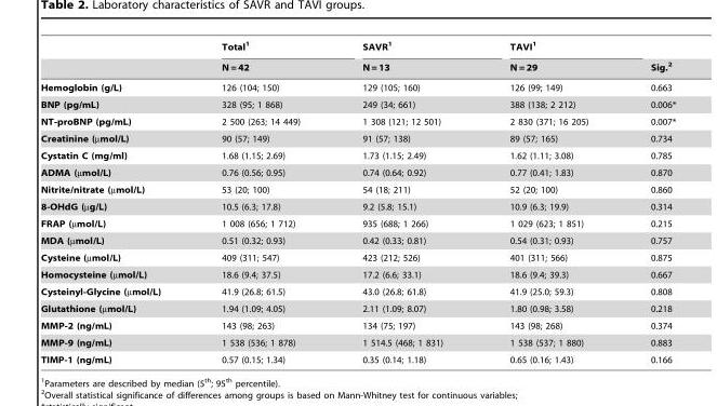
<table><thead><tr><td rowspan="2"></td><td rowspan="2">Total<sup>1</sup> N = 42</td><td rowspan="2">SAVR<sup>1</sup> N = 13</td><td rowspan="2">TAVI<sup>1</sup> N = 29</td><td rowspan="2">Sig.<sup>2</sup></td></tr><tr></tr></thead><tbody><tr><td>Hemoglobin (g/L)</td><td>126 (104; 150)</td><td>129 (105; 160)</td><td>126 (99; 149)</td><td>0.663</td></tr><tr><td>BNP (pg/mL)</td><td>328 (95; 1 868)</td><td>249 (34; 661)</td><td>388 (138; 2 212)</td><td>0.006*</td></tr><tr><td>NT-proBNP (pg/mL)</td><td>2 500 (263; 14 449)</td><td>1 308 (121; 12 501)</td><td>2 830 (371; 16 205)</td><td>0.007*</td></tr><tr><td>Creatinine (µmol/L)</td><td>90 (57; 149)</td><td>91 (57; 138)</td><td>89 (57; 165)</td><td>0.734</td></tr><tr><td>Cystatin C (mg/ml)</td><td>1.68 (1.15; 2.69)</td><td>1.73 (1.15; 2.49)</td><td>1.62 (1.11; 3.08)</td><td>0.785</td></tr><tr><td>ADMA (µmol/L)</td><td>0.76 (0.56; 0.95)</td><td>0.74 (0.64; 0.92)</td><td>0.77 (0.41; 1.83)</td><td>0.870</td></tr><tr><td>Nitrite/nitrate (µmol/L)</td><td>53 (20; 100)</td><td>54 (18; 211)</td><td>52 (20; 100)</td><td>0.860</td></tr><tr><td>8-OHdG (µg/L)</td><td>10.5 (6.3; 17.8)</td><td>9.2 (5.8; 15.1)</td><td>10.9 (6.3; 19.9)</td><td>0.314</td></tr><tr><td>FRAP (µmol/L)</td><td>1 008 (656; 1 712)</td><td>935 (688; 1 266)</td><td>1 029 (623; 1 851)</td><td>0.215</td></tr><tr><td>MDA (µmol/L)</td><td>0.51 (0.32; 0.93)</td><td>0.42 (0.33; 0.81)</td><td>0.54 (0.31; 0.93)</td><td>0.757</td></tr><tr><td>Cysteine (µmol/L)</td><td>409 (311; 547)</td><td>423 (212; 526)</td><td>401 (311; 566)</td><td>0.875</td></tr><tr><td>Homocysteine (µmol/L)</td><td>18.6 (9.4; 37.5)</td><td>17.2 (6.6; 33.1)</td><td>18.6 (9.4; 39.3)</td><td>0.667</td></tr><tr><td>Cysteinyl-Glycine (µmol/L)</td><td>41.9 (26.8; 61.5)</td><td>43.0 (26.8; 61.8)</td><td>41.9 (25.0; 59.3)</td><td>0.808</td></tr><tr><td>Glutathione (µmol/L)</td><td>1.94 (1.09; 4.05)</td><td>2.11 (1.09; 8.07)</td><td>1.80 (0.98; 3.58)</td><td>0.218</td></tr><tr><td>MMP-2 (ng/mL)</td><td>143 (98; 263)</td><td>134 (75; 197)</td><td>143 (98; 268)</td><td>0.374</td></tr><tr><td>MMP-9 (ng/mL)</td><td>1 538 (536; 1 878)</td><td>1 514.5 (468; 1 831)</td><td>1 538 (537; 1 880)</td><td>0.883</td></tr><tr><td>TIMP-1 (ng/mL)</td><td>0.57 (0.15; 1.34)</td><td>0.35 (0.14; 1.18)</td><td>0.65 (0.16; 1.43)</td><td>0.166</td></tr></tbody></table>